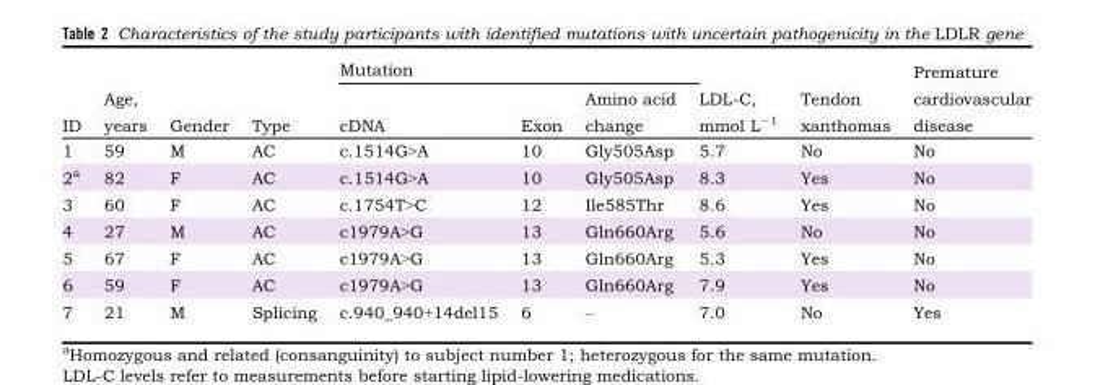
<table><thead><tr><td rowspan="2">ID</td><td rowspan="2">Age, years</td><td rowspan="2">Gender</td><td rowspan="2">Type</td><td colspan="3">Mutation</td><td rowspan="2">LDL-C, mmol L<sup>−1</sup></td><td rowspan="2">Tendon xanthomas</td><td rowspan="2">Premature cardiovascular disease</td></tr><tr><td>cDNA</td><td>Exon</td><td>Amino acid change</td></tr></thead><tbody><tr><td>1</td><td>59</td><td>M</td><td>AC</td><td>c.1514G&gt;A</td><td>10</td><td>Gly505Asp</td><td>5.7</td><td>No</td><td>No</td></tr><tr><td>2<sup>a</sup></td><td>82</td><td>F</td><td>AC</td><td>c.1514G&gt;A</td><td>10</td><td>Gly505Asp</td><td>8.3</td><td>Yes</td><td>No</td></tr><tr><td>3</td><td>60</td><td>F</td><td>AC</td><td>c.1754T&gt;C</td><td>12</td><td>Ile585Thr</td><td>8.6</td><td>Yes</td><td>No</td></tr><tr><td>4</td><td>27</td><td>M</td><td>AC</td><td>c1979A&gt;G</td><td>13</td><td>Gln660Arg</td><td>5.6</td><td>No</td><td>No</td></tr><tr><td>5</td><td>67</td><td>F</td><td>AC</td><td>c1979A&gt;G</td><td>13</td><td>Gln660Arg</td><td>5.3</td><td>Yes</td><td>No</td></tr><tr><td>6</td><td>59</td><td>F</td><td>AC</td><td>c1979A&gt;G</td><td>13</td><td>Gln660Arg</td><td>7.9</td><td>Yes</td><td>No</td></tr><tr><td>7</td><td>21</td><td>M</td><td>Splicing</td><td>c.940_940+14del15</td><td>6</td><td>–</td><td>7.0</td><td>No</td><td>Yes</td></tr></tbody></table>